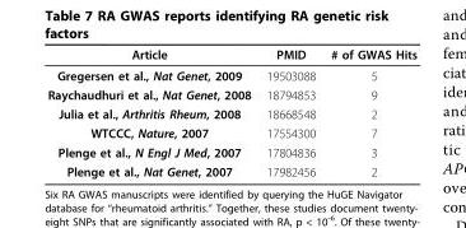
<table><thead><tr><td>Article</td><td>PMID</td><td># of GWAS Hits</td></tr></thead><tbody><tr><td>Gregersen et al., Nat Genet, 2009</td><td>19503088</td><td>5</td></tr><tr><td>Raychaudhuri et al., Nat Genet, 2008</td><td>18794853</td><td>9</td></tr><tr><td>Julia et al., Arthritis Rheum, 2008</td><td>18668548</td><td>2</td></tr><tr><td>WTCCC, Nature, 2007</td><td>17554300</td><td>7</td></tr><tr><td>Plenge et al., N Engl J Med, 2007</td><td>17804836</td><td>3</td></tr><tr><td>Plenge et al., Nat Genet, 2007</td><td>17982456</td><td>2</td></tr></tbody></table>